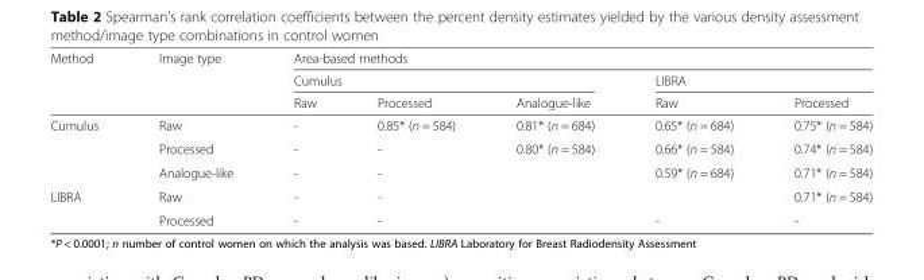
<table><thead><tr><td rowspan="3">Method</td><td rowspan="3">Image type</td><td colspan="5">Area-based methods</td></tr><tr><td colspan="3">Cumulus</td><td colspan="2">LIBRA</td></tr><tr><td>Raw</td><td>Processed</td><td>Analogue-like</td><td>Raw</td><td>Processed</td></tr></thead><tbody><tr><td rowspan="3">Cumulus</td><td>Raw</td><td>-</td><td>0.85* (n = 584)</td><td>0.81* (n = 684)</td><td>0.65* (n = 684)</td><td>0.75* (n = 584)</td></tr><tr><td>Processed</td><td>-</td><td>-</td><td>0.80* (n = 584)</td><td>0.66* (n = 584)</td><td>0.74* (n = 584)</td></tr><tr><td>Analogue-like</td><td>-</td><td>-</td><td></td><td>0.59* (n = 684)</td><td>0.71* (n = 584)</td></tr><tr><td rowspan="2">LIBRA</td><td>Raw</td><td>-</td><td>-</td><td></td><td></td><td>0.71* (n = 584)</td></tr><tr><td>Processed</td><td>-</td><td>-</td><td></td><td>-</td><td>-</td></tr></tbody></table>